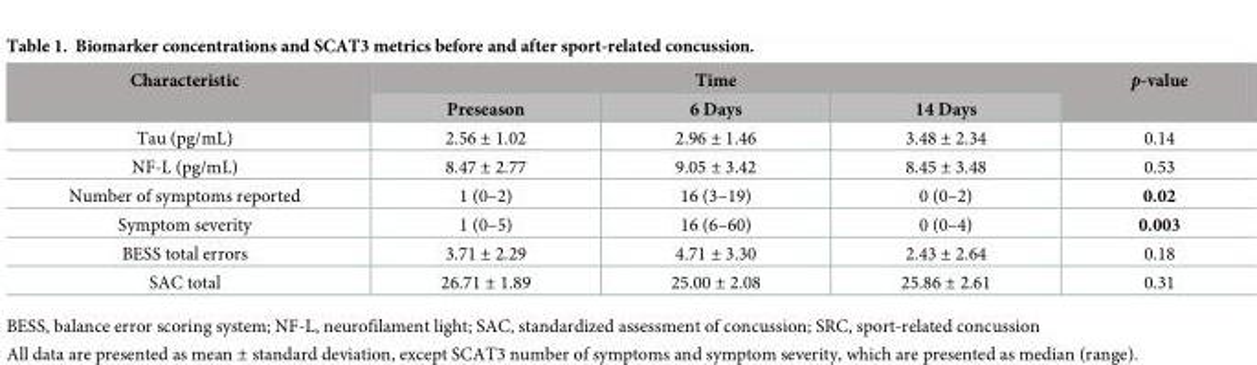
<table><thead><tr><td rowspan="2">Characteristic</td><td colspan="3">Time</td><td rowspan="2">p-value</td></tr><tr><td>Preseason</td><td>6 Days</td><td>14 Days</td></tr></thead><tbody><tr><td>Tau (pg/mL)</td><td>2.56 ± 1.02</td><td>2.96 ± 1.46</td><td>3.48 ± 2.34</td><td>0.14</td></tr><tr><td>NF-L (pg/mL)</td><td>8.47 ± 2.77</td><td>9.05 ± 3.42</td><td>8.45 ± 3.48</td><td>0.53</td></tr><tr><td>Number of symptoms reported</td><td>1 (0–2)</td><td>16 (3–19)</td><td>0 (0–2)</td><td>0.02</td></tr><tr><td>Symptom severity</td><td>1 (0–5)</td><td>16 (6–60)</td><td>0 (0–4)</td><td>0.003</td></tr><tr><td>BESS total errors</td><td>3.71 ± 2.29</td><td>4.71 ± 3.30</td><td>2.43 ± 2.64</td><td>0.18</td></tr><tr><td>SAC total</td><td>26.71 ± 1.89</td><td>25.00 ± 2.08</td><td>25.86 ± 2.61</td><td>0.31</td></tr></tbody></table>